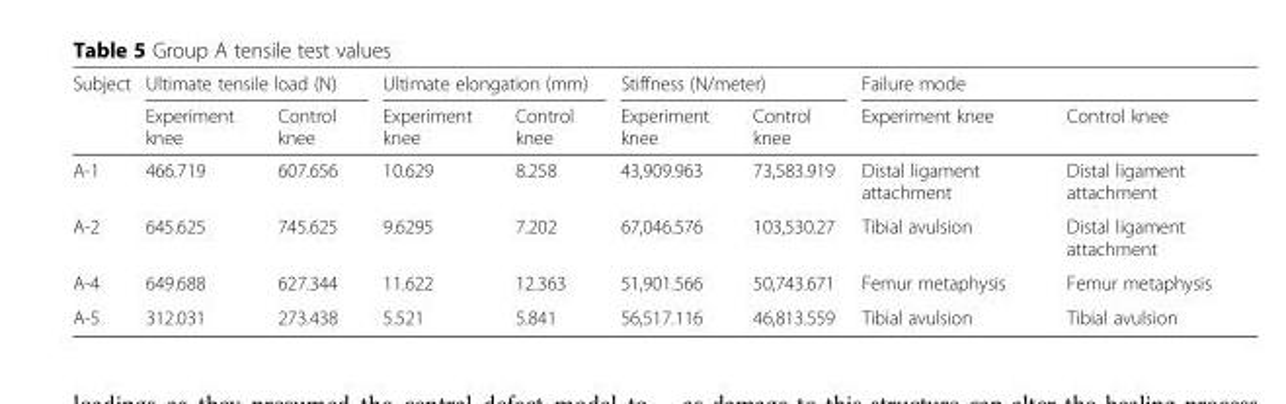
<table><thead><tr><td rowspan="2">Subject</td><td colspan="2">Ultimate tensile load (N)</td><td colspan="2">Ultimate elongation (mm)</td><td colspan="2">Stiffness (N/meter)</td><td colspan="2">Failure mode</td></tr><tr><td>Experiment knee</td><td>Control knee</td><td>Experiment knee</td><td>Control knee</td><td>Experiment knee</td><td>Control knee</td><td>Experiment knee</td><td>Control knee</td></tr></thead><tbody><tr><td>A-1</td><td>466.719</td><td>607.656</td><td>10.629</td><td>8.258</td><td>43,909.963</td><td>73,583.919</td><td>Distal ligament attachment</td><td>Distal ligament attachment</td></tr><tr><td>A-2</td><td>645.625</td><td>745.625</td><td>9.6295</td><td>7.202</td><td>67,046.576</td><td>103,530.27</td><td>Tibial avulsion</td><td>Distal ligament attachment</td></tr><tr><td>A-4</td><td>649.688</td><td>627.344</td><td>11.622</td><td>12.363</td><td>51,901.566</td><td>50,743.671</td><td>Femur metaphysis</td><td>Femur metaphysis</td></tr><tr><td>A-5</td><td>312.031</td><td>273.438</td><td>5.521</td><td>5.841</td><td>56,517.116</td><td>46,813.559</td><td>Tibial avulsion</td><td>Tibial avulsion</td></tr></tbody></table>